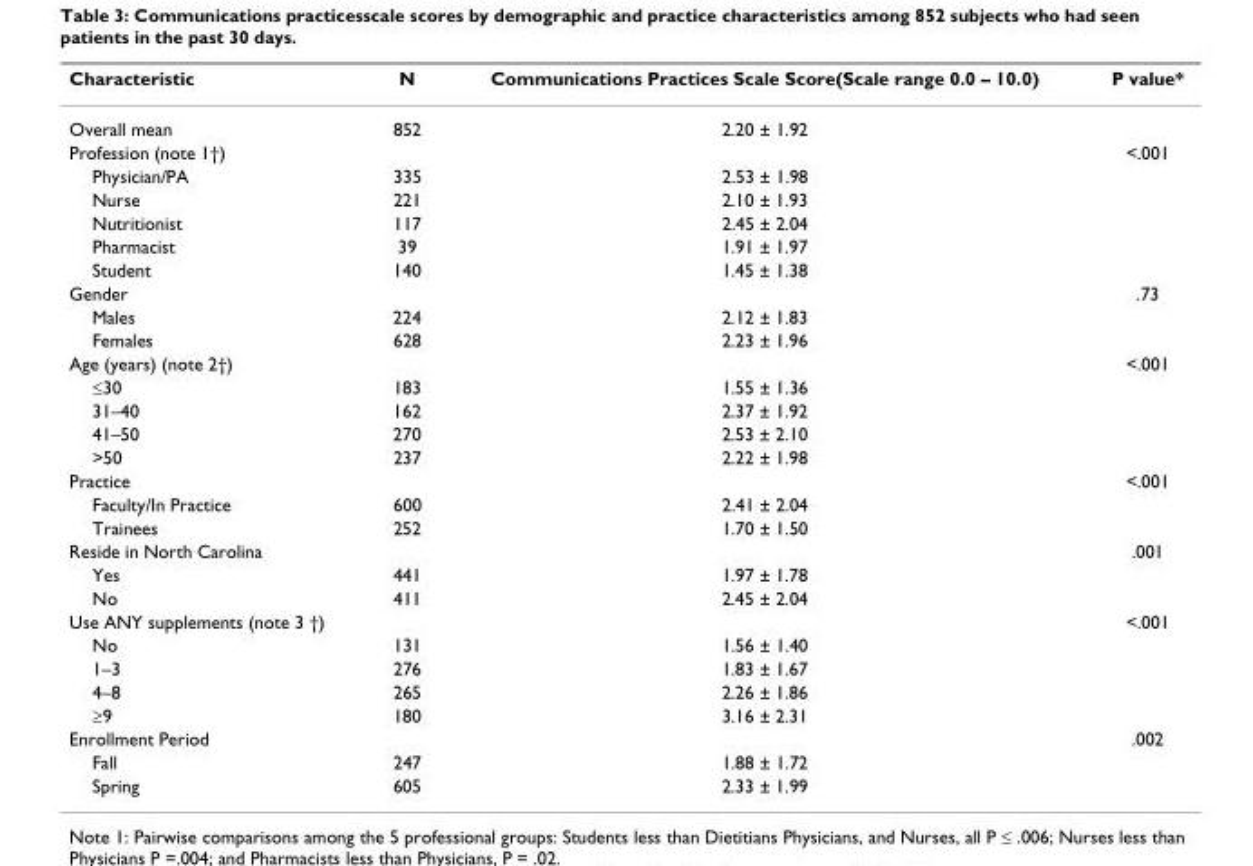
<table><thead><tr><td>Characteristic</td><td>N</td><td>Communications Practices Scale Score(Scale range 0.0 – 10.0)</td><td>P value*</td></tr></thead><tbody><tr><td>Overall mean</td><td>852</td><td>2.20 ± 1.92</td><td></td></tr><tr><td>Profession (note 1†)</td><td></td><td></td><td>&lt;.001</td></tr><tr><td>Physician/PA</td><td>335</td><td>2.53 ± 1.98</td><td></td></tr><tr><td>Nurse</td><td>221</td><td>2.10 ± 1.93</td><td></td></tr><tr><td>Nutritionist</td><td>117</td><td>2.45 ± 2.04</td><td></td></tr><tr><td>Pharmacist</td><td>39</td><td>1.91 ± 1.97</td><td></td></tr><tr><td>Student</td><td>140</td><td>1.45 ± 1.38</td><td></td></tr><tr><td>Gender</td><td></td><td></td><td>.73</td></tr><tr><td>Males</td><td>224</td><td>2.12 ± 1.83</td><td></td></tr><tr><td>Females</td><td>628</td><td>2.23 ± 1.96</td><td></td></tr><tr><td>Age (years) (note 2†)</td><td></td><td></td><td>&lt;.001</td></tr><tr><td>≤30</td><td>183</td><td>1.55 ± 1.36</td><td></td></tr><tr><td>31–40</td><td>162</td><td>2.37 ± 1.92</td><td></td></tr><tr><td>41–50</td><td>270</td><td>2.53 ± 2.10</td><td></td></tr><tr><td>&gt;50</td><td>237</td><td>2.22 ± 1.98</td><td></td></tr><tr><td>Practice</td><td></td><td></td><td>&lt;.001</td></tr><tr><td>Faculty/In Practice</td><td>600</td><td>2.41 ± 2.04</td><td></td></tr><tr><td>Trainees</td><td>252</td><td>1.70 ± 1.50</td><td></td></tr><tr><td>Reside in North Carolina</td><td></td><td></td><td>.001</td></tr><tr><td>Yes</td><td>441</td><td>1.97 ± 1.78</td><td></td></tr><tr><td>No</td><td>411</td><td>2.45 ± 2.04</td><td></td></tr><tr><td>Use ANY supplements (note 3 †)</td><td></td><td></td><td>&lt;.001</td></tr><tr><td>No</td><td>131</td><td>1.56 ± 1.40</td><td></td></tr><tr><td>1–3</td><td>276</td><td>1.83 ± 1.67</td><td></td></tr><tr><td>4–8</td><td>265</td><td>2.26 ± 1.86</td><td></td></tr><tr><td>≥9</td><td>180</td><td>3.16 ± 2.31</td><td></td></tr><tr><td>Enrollment Period</td><td></td><td></td><td>.002</td></tr><tr><td>Fall</td><td>247</td><td>1.88 ± 1.72</td><td></td></tr><tr><td>Spring</td><td>605</td><td>2.33 ± 1.99</td><td></td></tr></tbody></table>